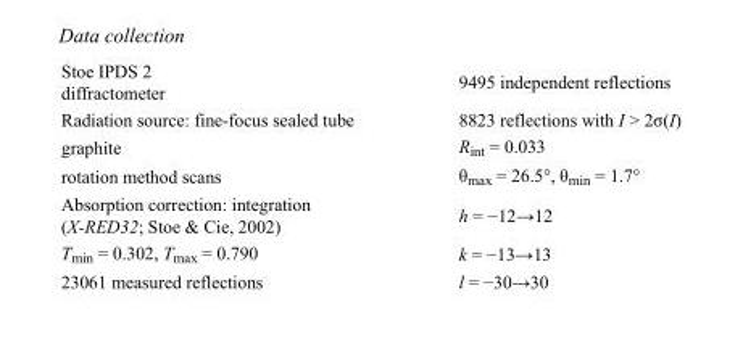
<table><tbody><tr><td>Stoe IPDS 2 diffractometer</td><td>9495 independent reflections</td></tr><tr><td>Radiation source: fine-focus sealed tube</td><td>8823 reflections with I &gt; 2σ(I)</td></tr><tr><td>graphite</td><td>R<sub>int</sub> = 0.033</td></tr><tr><td>rotation method scans</td><td>θ<sub>max</sub> = 26.5°, θ<sub>min</sub> = 1.7°</td></tr><tr><td>Absorption correction: integration (X-RED32; Stoe &amp; Cie, 2002)</td><td>h = −12→12</td></tr><tr><td>T<sub>min</sub> = 0.302, T<sub>max</sub> = 0.790</td><td>k = −13→13</td></tr><tr><td>23061 measured reflections</td><td>l = −30→30</td></tr></tbody></table>